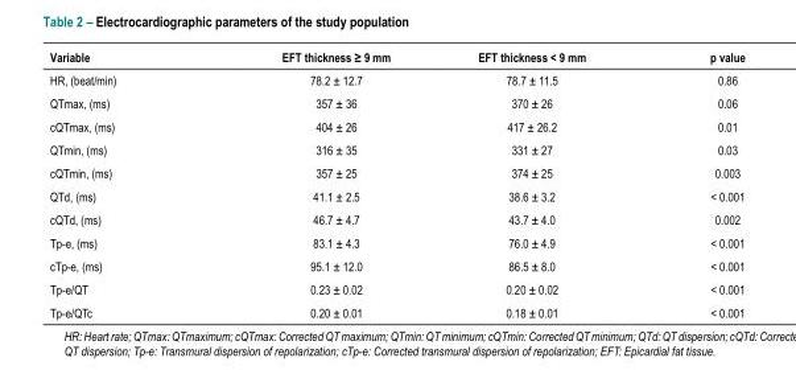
<table><thead><tr><td>Variable</td><td>EFT thickness ≥ 9 mm</td><td>EFT thickness &lt; 9 mm</td><td>p value</td></tr></thead><tbody><tr><td>HR, (beat/min)</td><td>78.2 ± 12.7</td><td>78.7 ± 11.5</td><td>0.86</td></tr><tr><td>QTmax, (ms)</td><td>357 ± 36</td><td>370 ± 26</td><td>0.06</td></tr><tr><td>cQTmax, (ms)</td><td>404 ± 26</td><td>417 ± 26.2</td><td>0.01</td></tr><tr><td>QTmin, (ms)</td><td>316 ± 35</td><td>331 ± 27</td><td>0.03</td></tr><tr><td>cQTmin, (ms)</td><td>357 ± 25</td><td>374 ± 25</td><td>0.003</td></tr><tr><td>QTd, (ms)</td><td>41.1 ± 2.5</td><td>38.6 ± 3.2</td><td>&lt; 0.001</td></tr><tr><td>cQTd, (ms)</td><td>46.7 ± 4.7</td><td>43.7 ± 4.0</td><td>0.002</td></tr><tr><td>Tp-e, (ms)</td><td>83.1 ± 4.3</td><td>76.0 ± 4.9</td><td>&lt; 0.001</td></tr><tr><td>cTp-e, (ms)</td><td>95.1 ± 12.0</td><td>86.5 ± 8.0</td><td>&lt; 0.001</td></tr><tr><td>Tp-e/QT</td><td>0.23 ± 0.02</td><td>0.20 ± 0.02</td><td>&lt; 0.001</td></tr><tr><td>Tp-e/QTc</td><td>0.20 ± 0.01</td><td>0.18 ± 0.01</td><td>&lt; 0.001</td></tr></tbody></table>